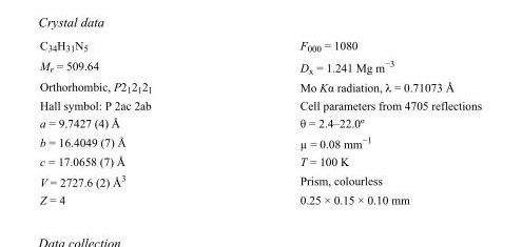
<table><tbody><tr><td>C<sub>34</sub>H<sub>31</sub>N<sub>5</sub></td><td>F000 = 1080</td></tr><tr><td>M<sub>r</sub> = 509.64</td><td>D<sub>x</sub> = 1.241 Mg m<sup>−3</sup></td></tr><tr><td>Orthorhombic, P2<sub>1</sub>2<sub>1</sub>2<sub>1</sub></td><td>Mo Kα radiation, λ = 0.71073 Å</td></tr><tr><td>Hall symbol: P 2ac 2ab</td><td>Cell parameters from 4705 reflections</td></tr><tr><td>a = 9.7427 (4) Å</td><td>θ = 2.4–22.0º</td></tr><tr><td>b = 16.4049 (7) Å</td><td>µ = 0.08 mm<sup>−1</sup></td></tr><tr><td>c = 17.0658 (7) Å</td><td>T = 100 K</td></tr><tr><td>V = 2727.6 (2) Å<sup>3</sup></td><td>Prism, colourless</td></tr><tr><td>Z = 4</td><td>0.25 × 0.15 × 0.10 mm</td></tr></tbody></table>